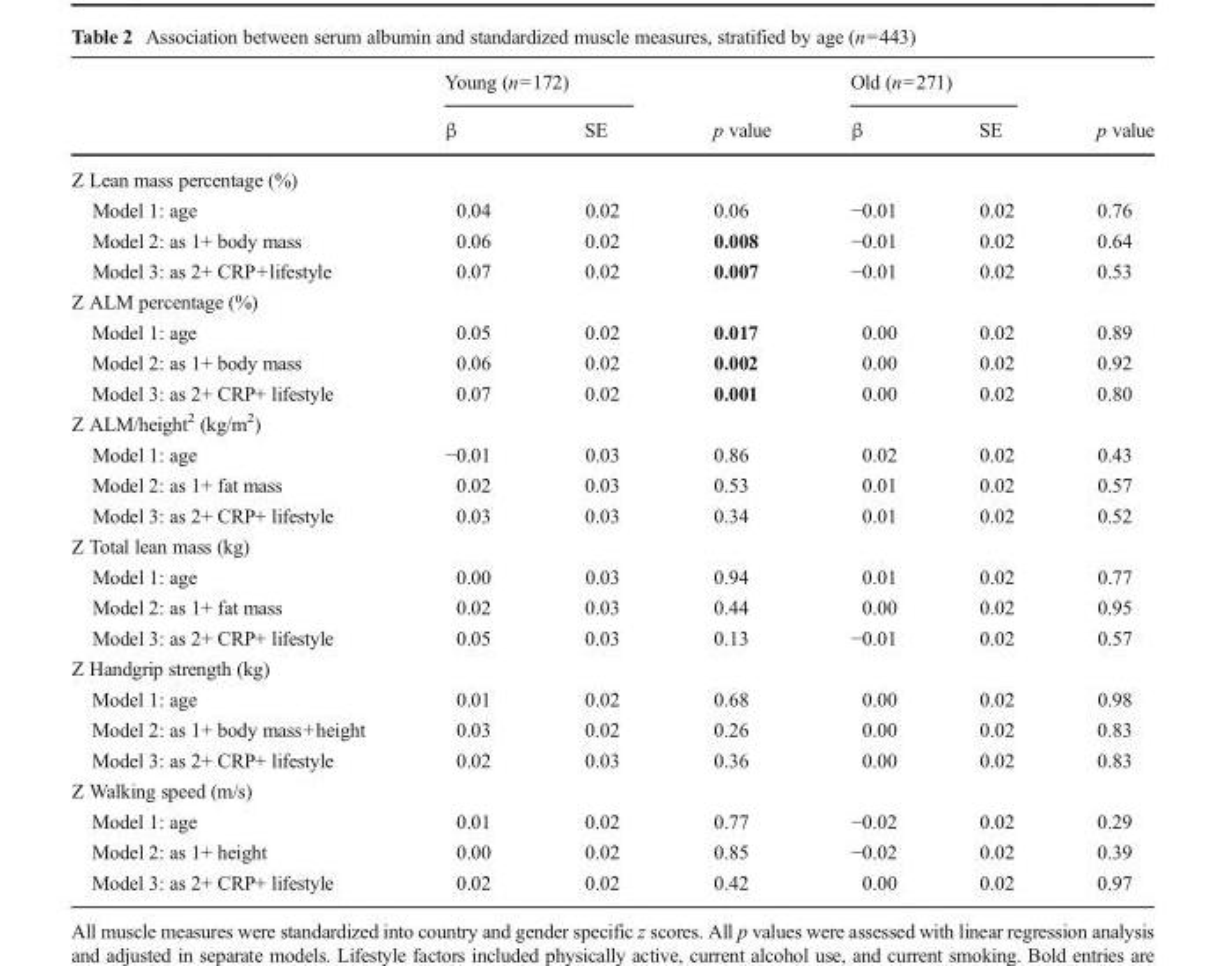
<table><thead><tr><td rowspan="2"></td><td colspan="2">Young (n=172)</td><td rowspan="2">p value</td><td colspan="2">Old (n=271)</td><td rowspan="2">p value</td></tr><tr><td>β</td><td>SE</td><td>β</td><td>SE</td></tr></thead><tbody><tr><td colspan="7">Z Lean mass percentage (%)</td></tr><tr><td>Model 1: age</td><td>0.04</td><td>0.02</td><td>0.06</td><td>−0.01</td><td>0.02</td><td>0.76</td></tr><tr><td>Model 2: as 1+ body mass</td><td>0.06</td><td>0.02</td><td>0.008</td><td>−0.01</td><td>0.02</td><td>0.64</td></tr><tr><td>Model 3: as 2+ CRP+lifestyle</td><td>0.07</td><td>0.02</td><td>0.007</td><td>−0.01</td><td>0.02</td><td>0.53</td></tr><tr><td colspan="7">Z ALM percentage (%)</td></tr><tr><td>Model 1: age</td><td>0.05</td><td>0.02</td><td>0.017</td><td>0.00</td><td>0.02</td><td>0.89</td></tr><tr><td>Model 2: as 1+ body mass</td><td>0.06</td><td>0.02</td><td>0.002</td><td>0.00</td><td>0.02</td><td>0.92</td></tr><tr><td>Model 3: as 2+ CRP+ lifestyle</td><td>0.07</td><td>0.02</td><td>0.001</td><td>0.00</td><td>0.02</td><td>0.80</td></tr><tr><td colspan="7">Z ALM/height<sup>2</sup> (kg/m<sup>2</sup>)</td></tr><tr><td>Model 1: age</td><td>−0.01</td><td>0.03</td><td>0.86</td><td>0.02</td><td>0.02</td><td>0.43</td></tr><tr><td>Model 2: as 1+ fat mass</td><td>0.02</td><td>0.03</td><td>0.53</td><td>0.01</td><td>0.02</td><td>0.57</td></tr><tr><td>Model 3: as 2+ CRP+ lifestyle</td><td>0.03</td><td>0.03</td><td>0.34</td><td>0.01</td><td>0.02</td><td>0.52</td></tr><tr><td colspan="7">Z Total lean mass (kg)</td></tr><tr><td>Model 1: age</td><td>0.00</td><td>0.03</td><td>0.94</td><td>0.01</td><td>0.02</td><td>0.77</td></tr><tr><td>Model 2: as 1+ fat mass</td><td>0.02</td><td>0.03</td><td>0.44</td><td>0.00</td><td>0.02</td><td>0.95</td></tr><tr><td>Model 3: as 2+ CRP+ lifestyle</td><td>0.05</td><td>0.03</td><td>0.13</td><td>−0.01</td><td>0.02</td><td>0.57</td></tr><tr><td colspan="7">Z Handgrip strength (kg)</td></tr><tr><td>Model 1: age</td><td>0.01</td><td>0.02</td><td>0.68</td><td>0.00</td><td>0.02</td><td>0.98</td></tr><tr><td>Model 2: as 1+ body mass+height</td><td>0.03</td><td>0.02</td><td>0.26</td><td>0.00</td><td>0.02</td><td>0.83</td></tr><tr><td>Model 3: as 2+ CRP+ lifestyle</td><td>0.02</td><td>0.03</td><td>0.36</td><td>0.00</td><td>0.02</td><td>0.83</td></tr><tr><td colspan="7">Z Walking speed (m/s)</td></tr><tr><td>Model 1: age</td><td>0.01</td><td>0.02</td><td>0.77</td><td>−0.02</td><td>0.02</td><td>0.29</td></tr><tr><td>Model 2: as 1+ height</td><td>0.00</td><td>0.02</td><td>0.85</td><td>−0.02</td><td>0.02</td><td>0.39</td></tr><tr><td>Model 3: as 2+ CRP+ lifestyle</td><td>0.02</td><td>0.02</td><td>0.42</td><td>0.00</td><td>0.02</td><td>0.97</td></tr></tbody></table>